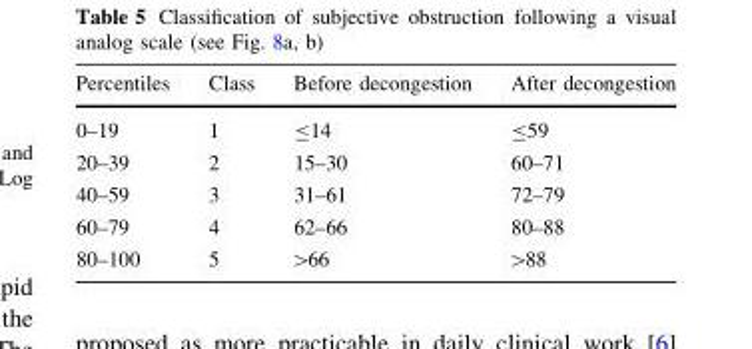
<table><thead><tr><td>Percentiles</td><td>Class</td><td>Before decongestion</td><td>After decongestion</td></tr></thead><tbody><tr><td>0–19</td><td>1</td><td>≤14</td><td>≤59</td></tr><tr><td>20–39</td><td>2</td><td>15–30</td><td>60–71</td></tr><tr><td>40–59</td><td>3</td><td>31–61</td><td>72–79</td></tr><tr><td>60–79</td><td>4</td><td>62–66</td><td>80–88</td></tr><tr><td>80–100</td><td>5</td><td>&gt;66</td><td>&gt;88</td></tr></tbody></table>